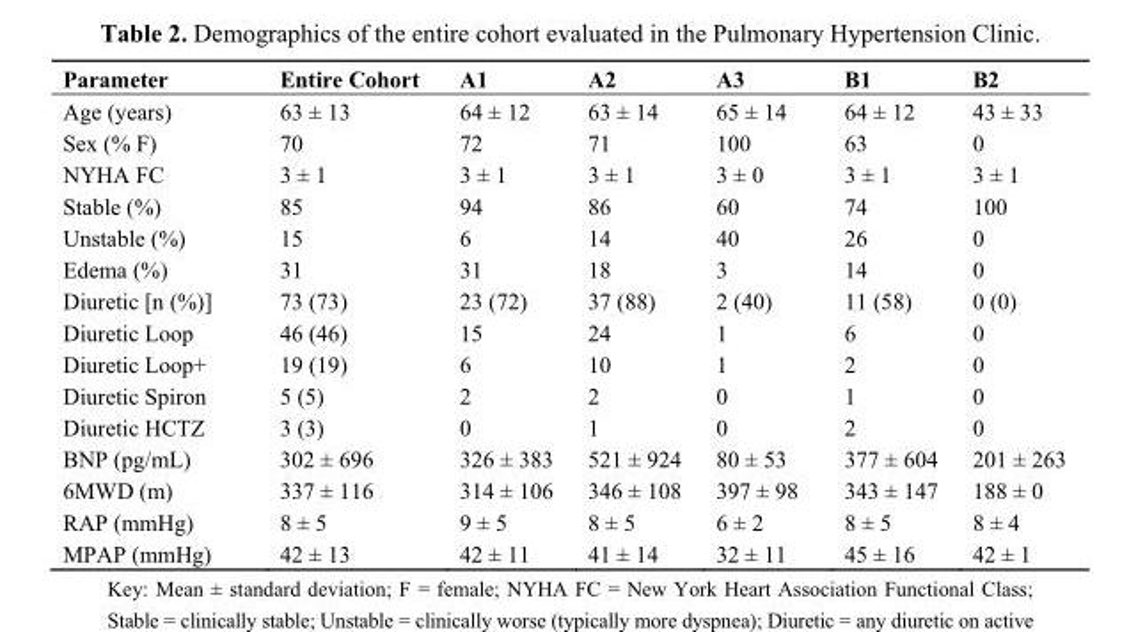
<table><thead><tr><td>Parameter</td><td>Entire Cohort</td><td>A1</td><td>A2</td><td>A3</td><td>B1</td><td>B2</td></tr></thead><tbody><tr><td>Age (years)</td><td>63 ± 13</td><td>64 ± 12</td><td>63 ± 14</td><td>65 ± 14</td><td>64 ± 12</td><td>43 ± 33</td></tr><tr><td>Sex (% F)</td><td>70</td><td>72</td><td>71</td><td>100</td><td>63</td><td>0</td></tr><tr><td>NYHA FC</td><td>3 ± 1</td><td>3 ± 1</td><td>3 ± 1</td><td>3 ± 0</td><td>3 ± 1</td><td>3 ± 1</td></tr><tr><td>Stable (%)</td><td>85</td><td>94</td><td>86</td><td>60</td><td>74</td><td>100</td></tr><tr><td>Unstable (%)</td><td>15</td><td>6</td><td>14</td><td>40</td><td>26</td><td>0</td></tr><tr><td>Edema (%)</td><td>31</td><td>31</td><td>18</td><td>3</td><td>14</td><td>0</td></tr><tr><td>Diuretic [n (%)]</td><td>73 (73)</td><td>23 (72)</td><td>37 (88)</td><td>2 (40)</td><td>11 (58)</td><td>0 (0)</td></tr><tr><td>Diuretic Loop</td><td>46 (46)</td><td>15</td><td>24</td><td>1</td><td>6</td><td>0</td></tr><tr><td>Diuretic Loop+</td><td>19 (19)</td><td>6</td><td>10</td><td>1</td><td>2</td><td>0</td></tr><tr><td>Diuretic Spiron</td><td>5 (5)</td><td>2</td><td>2</td><td>0</td><td>1</td><td>0</td></tr><tr><td>Diuretic HCTZ</td><td>3 (3)</td><td>0</td><td>1</td><td>0</td><td>2</td><td>0</td></tr><tr><td>BNP (pg/mL)</td><td>302 ± 696</td><td>326 ± 383</td><td>521 ± 924</td><td>80 ± 53</td><td>377 ± 604</td><td>201 ± 263</td></tr><tr><td>6MWD (m)</td><td>337 ± 116</td><td>314 ± 106</td><td>346 ± 108</td><td>397 ± 98</td><td>343 ± 147</td><td>188 ± 0</td></tr><tr><td>RAP (mmHg)</td><td>8 ± 5</td><td>9 ± 5</td><td>8 ± 5</td><td>6 ± 2</td><td>8 ± 5</td><td>8 ± 4</td></tr><tr><td>MPAP (mmHg)</td><td>42 ± 13</td><td>42 ± 11</td><td>41 ± 14</td><td>32 ± 11</td><td>45 ± 16</td><td>42 ± 1</td></tr></tbody></table>